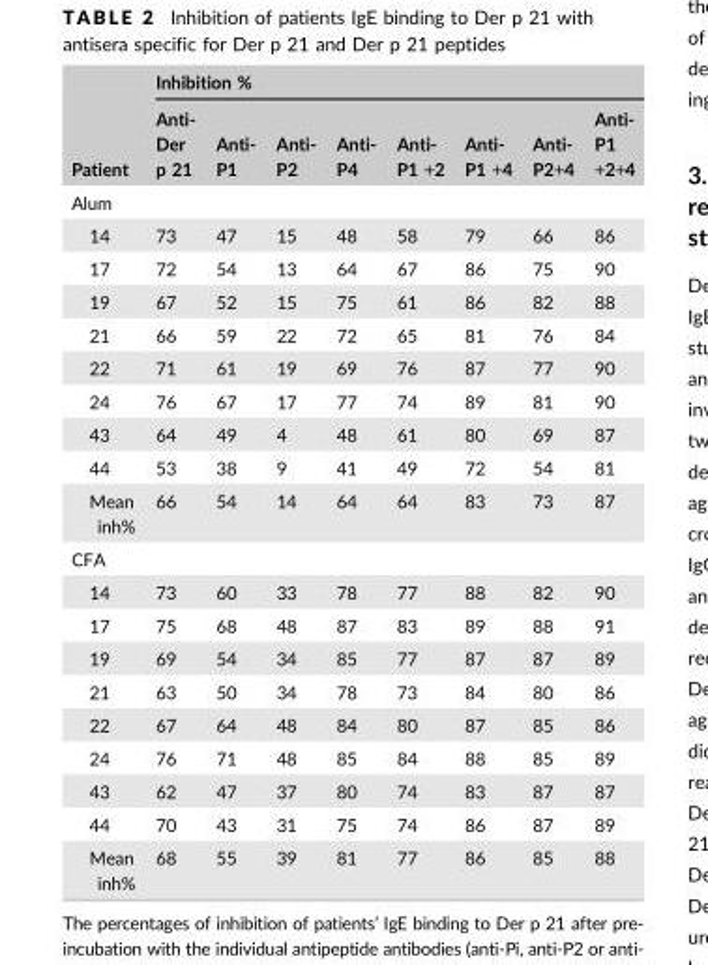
<table><thead><tr><td rowspan="2">Patient</td><td colspan="8">Inhibition %</td></tr><tr><td>Anti- Der p 21</td><td>Anti- P1</td><td>Anti- P2</td><td>Anti- P4</td><td>Anti- P1 +2</td><td>Anti- P1 +4</td><td>Anti- P2+4</td><td>Anti- P1 +2+4</td></tr></thead><tbody><tr><td colspan="9">Alum</td></tr><tr><td>14</td><td>73</td><td>47</td><td>15</td><td>48</td><td>58</td><td>79</td><td>66</td><td>86</td></tr><tr><td>17</td><td>72</td><td>54</td><td>13</td><td>64</td><td>67</td><td>86</td><td>75</td><td>90</td></tr><tr><td>19</td><td>67</td><td>52</td><td>15</td><td>75</td><td>61</td><td>86</td><td>82</td><td>88</td></tr><tr><td>21</td><td>66</td><td>59</td><td>22</td><td>72</td><td>65</td><td>81</td><td>76</td><td>84</td></tr><tr><td>22</td><td>71</td><td>61</td><td>19</td><td>69</td><td>76</td><td>87</td><td>77</td><td>90</td></tr><tr><td>24</td><td>76</td><td>67</td><td>17</td><td>77</td><td>74</td><td>89</td><td>81</td><td>90</td></tr><tr><td>43</td><td>64</td><td>49</td><td>4</td><td>48</td><td>61</td><td>80</td><td>69</td><td>87</td></tr><tr><td>44</td><td>53</td><td>38</td><td>9</td><td>41</td><td>49</td><td>72</td><td>54</td><td>81</td></tr><tr><td>Mean inh%</td><td>66</td><td>54</td><td>14</td><td>64</td><td>64</td><td>83</td><td>73</td><td>87</td></tr><tr><td colspan="9">CFA</td></tr><tr><td>14</td><td>73</td><td>60</td><td>33</td><td>78</td><td>77</td><td>88</td><td>82</td><td>90</td></tr><tr><td>17</td><td>75</td><td>68</td><td>48</td><td>87</td><td>83</td><td>89</td><td>88</td><td>91</td></tr><tr><td>19</td><td>69</td><td>54</td><td>34</td><td>85</td><td>77</td><td>87</td><td>87</td><td>89</td></tr><tr><td>21</td><td>63</td><td>50</td><td>34</td><td>78</td><td>73</td><td>84</td><td>80</td><td>86</td></tr><tr><td>22</td><td>67</td><td>64</td><td>48</td><td>84</td><td>80</td><td>87</td><td>85</td><td>86</td></tr><tr><td>24</td><td>76</td><td>71</td><td>48</td><td>85</td><td>84</td><td>88</td><td>85</td><td>89</td></tr><tr><td>43</td><td>62</td><td>47</td><td>37</td><td>80</td><td>74</td><td>83</td><td>87</td><td>87</td></tr><tr><td>44</td><td>70</td><td>43</td><td>31</td><td>75</td><td>74</td><td>86</td><td>87</td><td>89</td></tr><tr><td>Mean inh%</td><td>68</td><td>55</td><td>39</td><td>81</td><td>77</td><td>86</td><td>85</td><td>88</td></tr></tbody></table>